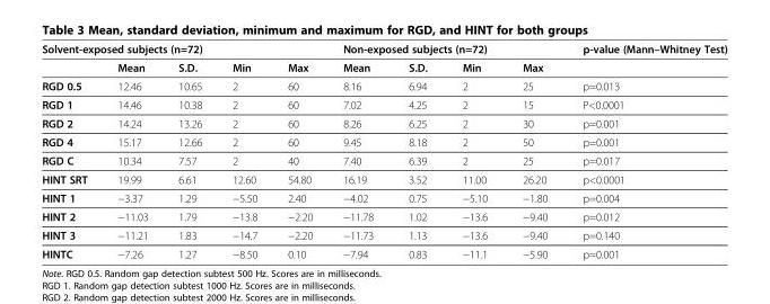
<table><thead><tr><td colspan="5">Solvent-exposed subjects (n=72)</td><td colspan="4">Non-exposed subjects (n=72)</td><td rowspan="2">p-value (Mann–Whitney Test)</td></tr><tr><td></td><td>Mean</td><td>S.D.</td><td>Min</td><td>Max</td><td>Mean</td><td>S.D.</td><td>Min</td><td>Max</td></tr></thead><tbody><tr><td>RGD 0.5</td><td>12.46</td><td>10.65</td><td>2</td><td>60</td><td>8.16</td><td>6.94</td><td>2</td><td>25</td><td>p=0.013</td></tr><tr><td>RGD 1</td><td>14.46</td><td>10.38</td><td>2</td><td>60</td><td>7.02</td><td>4.25</td><td>2</td><td>15</td><td>P&lt;0.0001</td></tr><tr><td>RGD 2</td><td>14.24</td><td>13.26</td><td>2</td><td>60</td><td>8.26</td><td>6.25</td><td>2</td><td>30</td><td>p=0.001</td></tr><tr><td>RGD 4</td><td>15.17</td><td>12.66</td><td>2</td><td>60</td><td>9.45</td><td>8.18</td><td>2</td><td>50</td><td>p=0.001</td></tr><tr><td>RGD C</td><td>10.34</td><td>7.57</td><td>2</td><td>40</td><td>7.40</td><td>6.39</td><td>2</td><td>25</td><td>p=0.017</td></tr><tr><td>HINT SRT</td><td>19.99</td><td>6.61</td><td>12.60</td><td>54.80</td><td>16.19</td><td>3.52</td><td>11.00</td><td>26.20</td><td>p&lt;0.0001</td></tr><tr><td>HINT 1</td><td>−3.37</td><td>1.29</td><td>−5.50</td><td>2.40</td><td>−4.02</td><td>0.75</td><td>−5.10</td><td>−1.80</td><td>p=0.004</td></tr><tr><td>HINT 2</td><td>−11.03</td><td>1.79</td><td>−13.8</td><td>−2.20</td><td>−11.78</td><td>1.02</td><td>−13.6</td><td>−9.40</td><td>p=0.012</td></tr><tr><td>HINT 3</td><td>−11.21</td><td>1.83</td><td>−14.7</td><td>−2.20</td><td>−11.73</td><td>1.13</td><td>−13.6</td><td>−9.40</td><td>p=0.140</td></tr><tr><td>HINTC</td><td>−7.26</td><td>1.27</td><td>−8.50</td><td>0.10</td><td>−7.94</td><td>0.83</td><td>−11.1</td><td>−5.90</td><td>p=0.001</td></tr></tbody></table>